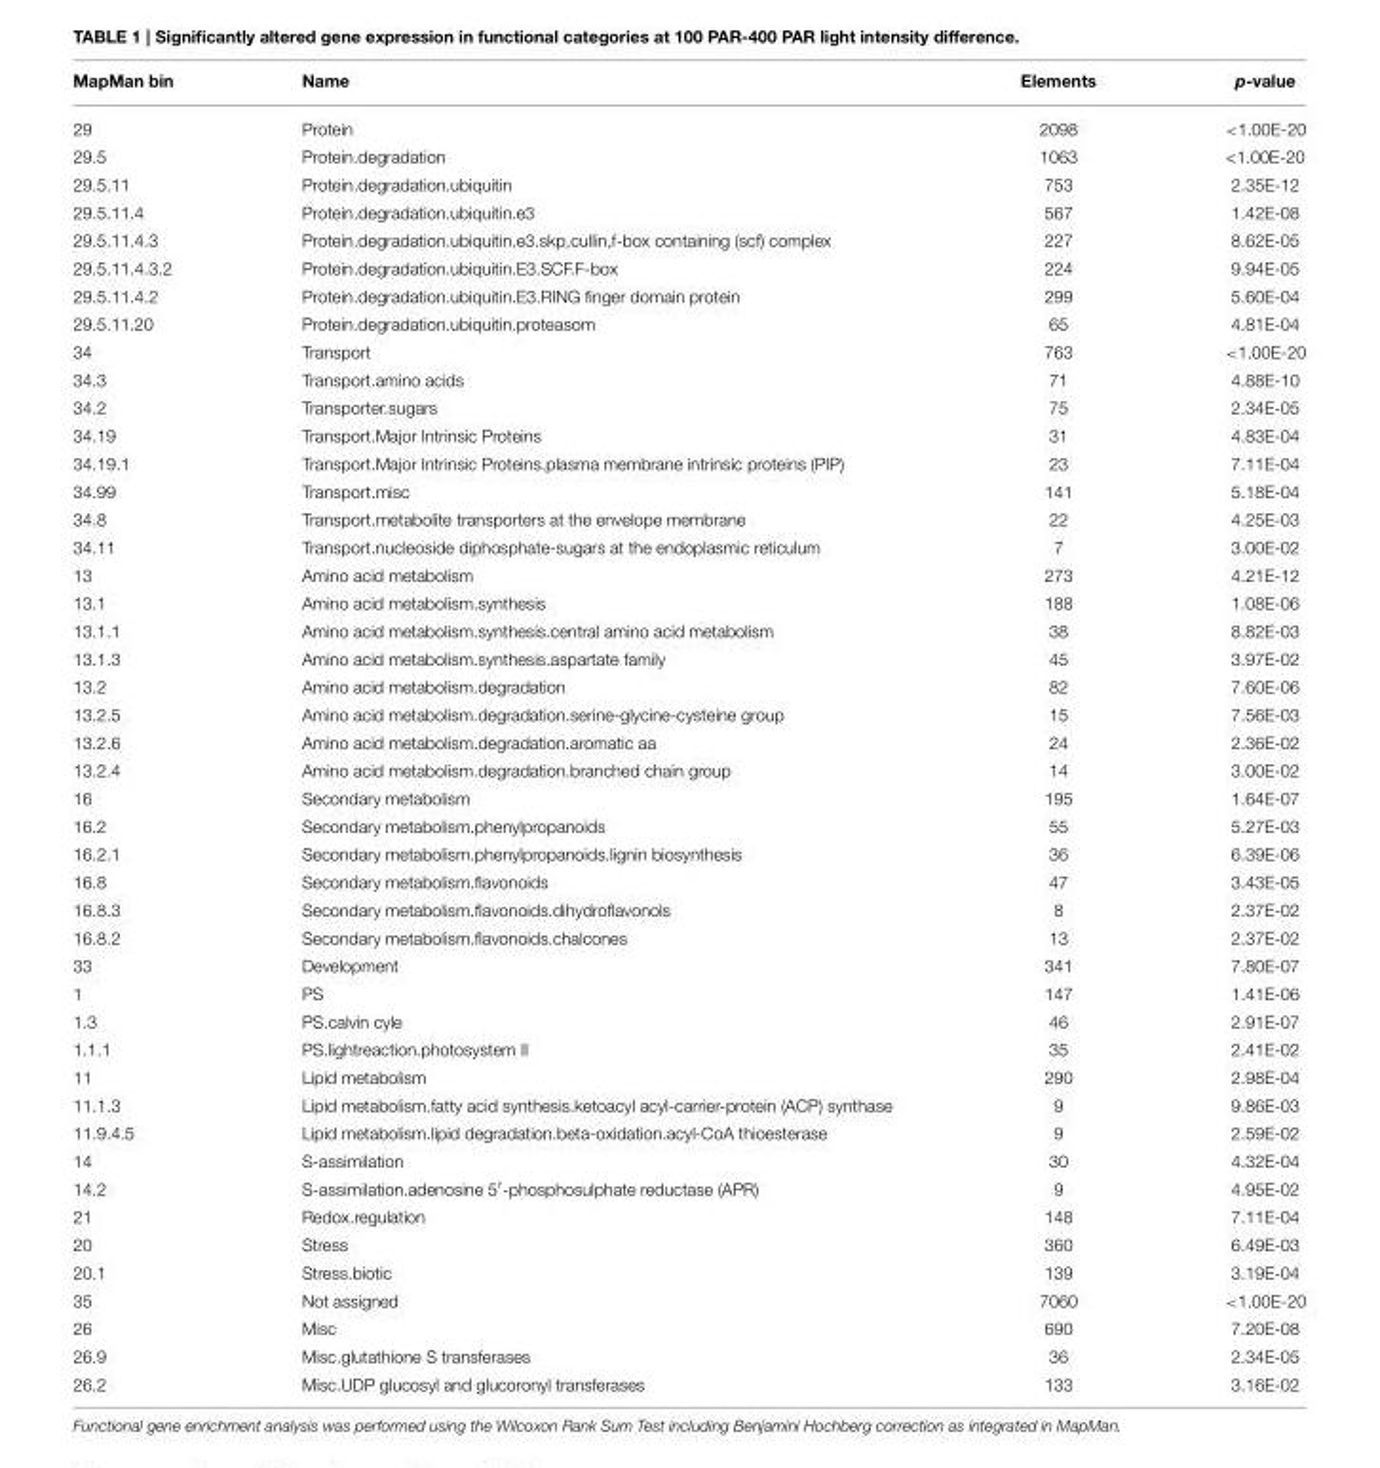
<table><thead><tr><td>MapMan bin</td><td>Name</td><td>Elements</td><td>p-value</td></tr></thead><tbody><tr><td>29</td><td>Protein</td><td>2098</td><td>&lt;1.00E-20</td></tr><tr><td>29.5</td><td>Protein.degradation</td><td>1063</td><td>&lt;1.00E-20</td></tr><tr><td>29.5.11</td><td>Protein.degradation.ubiquitin</td><td>753</td><td>2.35E-12</td></tr><tr><td>29.5.11.4</td><td>Protein.degradation.ubiquitin.e3</td><td>567</td><td>1.42E-08</td></tr><tr><td>29.5.11.4.3</td><td>Protein.degradation.ubiquitin.e3.skp,cullin,f-box containing (scf) complex</td><td>227</td><td>8.62E-05</td></tr><tr><td>29.5.11.4.3.2</td><td>Protein.degradation.ubiquitin.E3.SCF.F-box</td><td>224</td><td>9.94E-05</td></tr><tr><td>29.5.11.4.2</td><td>Protein.degradation.ubiquitin.E3.RING finger domain protein</td><td>299</td><td>5.60E-04</td></tr><tr><td>29.5.11.20</td><td>Protein.degradation.ubiquitin.proteasom</td><td>65</td><td>4.81E-04</td></tr><tr><td>34</td><td>Transport</td><td>763</td><td>&lt;1.00E-20</td></tr><tr><td>34.3</td><td>Transport.amino acids</td><td>71</td><td>4.88E-10</td></tr><tr><td>34.2</td><td>Transporter.sugars</td><td>75</td><td>2.34E-05</td></tr><tr><td>34.19</td><td>Transport.Major Intrinsic Proteins</td><td>31</td><td>4.83E-04</td></tr><tr><td>34.19.1</td><td>Transport.Major Intrinsic Proteins.plasma membrane intrinsic proteins (PIP)</td><td>23</td><td>7.11E-04</td></tr><tr><td>34.99</td><td>Transport.misc</td><td>141</td><td>5.18E-04</td></tr><tr><td>34.8</td><td>Transport.metabolite transporters at the envelope membrane</td><td>22</td><td>4.25E-03</td></tr><tr><td>34.11</td><td>Transport.nucleoside diphosphate-sugars at the endoplasmic reticulum</td><td>7</td><td>3.00E-02</td></tr><tr><td>13</td><td>Amino acid metabolism</td><td>273</td><td>4.21E-12</td></tr><tr><td>13.1</td><td>Amino acid metabolism.synthesis</td><td>188</td><td>1.08E-06</td></tr><tr><td>13.1.1</td><td>Amino acid metabolism.synthesis.central amino acid metabolism</td><td>38</td><td>8.82E-03</td></tr><tr><td>13.1.3</td><td>Amino acid metabolism.synthesis.aspartate family</td><td>45</td><td>3.97E-02</td></tr><tr><td>13.2</td><td>Amino acid metabolism.degradation</td><td>82</td><td>7.60E-06</td></tr><tr><td>13.2.5</td><td>Amino acid metabolism.degradation.serine-glycine-cysteine group</td><td>15</td><td>7.56E-03</td></tr><tr><td>13.2.6</td><td>Amino acid metabolism.degradation.aromatic aa</td><td>24</td><td>2.36E-02</td></tr><tr><td>13.2.4</td><td>Amino acid metabolism.degradation.branched chain group</td><td>14</td><td>3.00E-02</td></tr><tr><td>16</td><td>Secondary metabolism</td><td>195</td><td>1.64E-07</td></tr><tr><td>16.2</td><td>Secondary metabolism.phenylpropanoids</td><td>55</td><td>5.27E-03</td></tr><tr><td>16.2.1</td><td>Secondary metabolism.phenylpropanoids.lignin biosynthesis</td><td>36</td><td>6.39E-06</td></tr><tr><td>16.8</td><td>Secondary metabolism.flavonoids</td><td>47</td><td>3.43E-05</td></tr><tr><td>16.8.3</td><td>Secondary metabolism.flavonoids.dihydroflavonols</td><td>8</td><td>2.37E-02</td></tr><tr><td>16.8.2</td><td>Secondary metabolism.flavonoids.chalcones</td><td>13</td><td>2.37E-02</td></tr><tr><td>33</td><td>Development</td><td>341</td><td>7.80E-07</td></tr><tr><td>1</td><td>PS</td><td>147</td><td>1.41E-06</td></tr><tr><td>1.3</td><td>PS.calvin cyle</td><td>46</td><td>2.91E-07</td></tr><tr><td>1.1.1</td><td>PS.lightreaction.photosystem II</td><td>35</td><td>2.41E-02</td></tr><tr><td>11</td><td>Lipid metabolism</td><td>290</td><td>2.98E-04</td></tr><tr><td>11.1.3</td><td>Lipid metabolism.fatty acid synthesis.ketoacyl acyl-carrier-protein (ACP) synthase</td><td>9</td><td>9.86E-03</td></tr><tr><td>11.9.4.5</td><td>Lipid metabolism.lipid degradation.beta-oxidation.acyl-CoA thioesterase</td><td>9</td><td>2.59E-02</td></tr><tr><td>14</td><td>S-assimilation</td><td>30</td><td>4.32E-04</td></tr><tr><td>14.2</td><td>S-assimilation.adenosine 5′-phosphosulphate reductase (APR)</td><td>9</td><td>4.95E-02</td></tr><tr><td>21</td><td>Redox.regulation</td><td>148</td><td>7.11E-04</td></tr><tr><td>20</td><td>Stress</td><td>360</td><td>6.49E-03</td></tr><tr><td>20.1</td><td>Stress.biotic</td><td>139</td><td>3.19E-04</td></tr><tr><td>35</td><td>Not assigned</td><td>7060</td><td>&lt;1.00E-20</td></tr><tr><td>26</td><td>Misc</td><td>690</td><td>7.20E-08</td></tr><tr><td>26.9</td><td>Misc.glutathione S transferases</td><td>36</td><td>2.34E-05</td></tr><tr><td>26.2</td><td>Misc.UDP glucosyl and glucoronyl transferases</td><td>133</td><td>3.16E-02</td></tr></tbody></table>